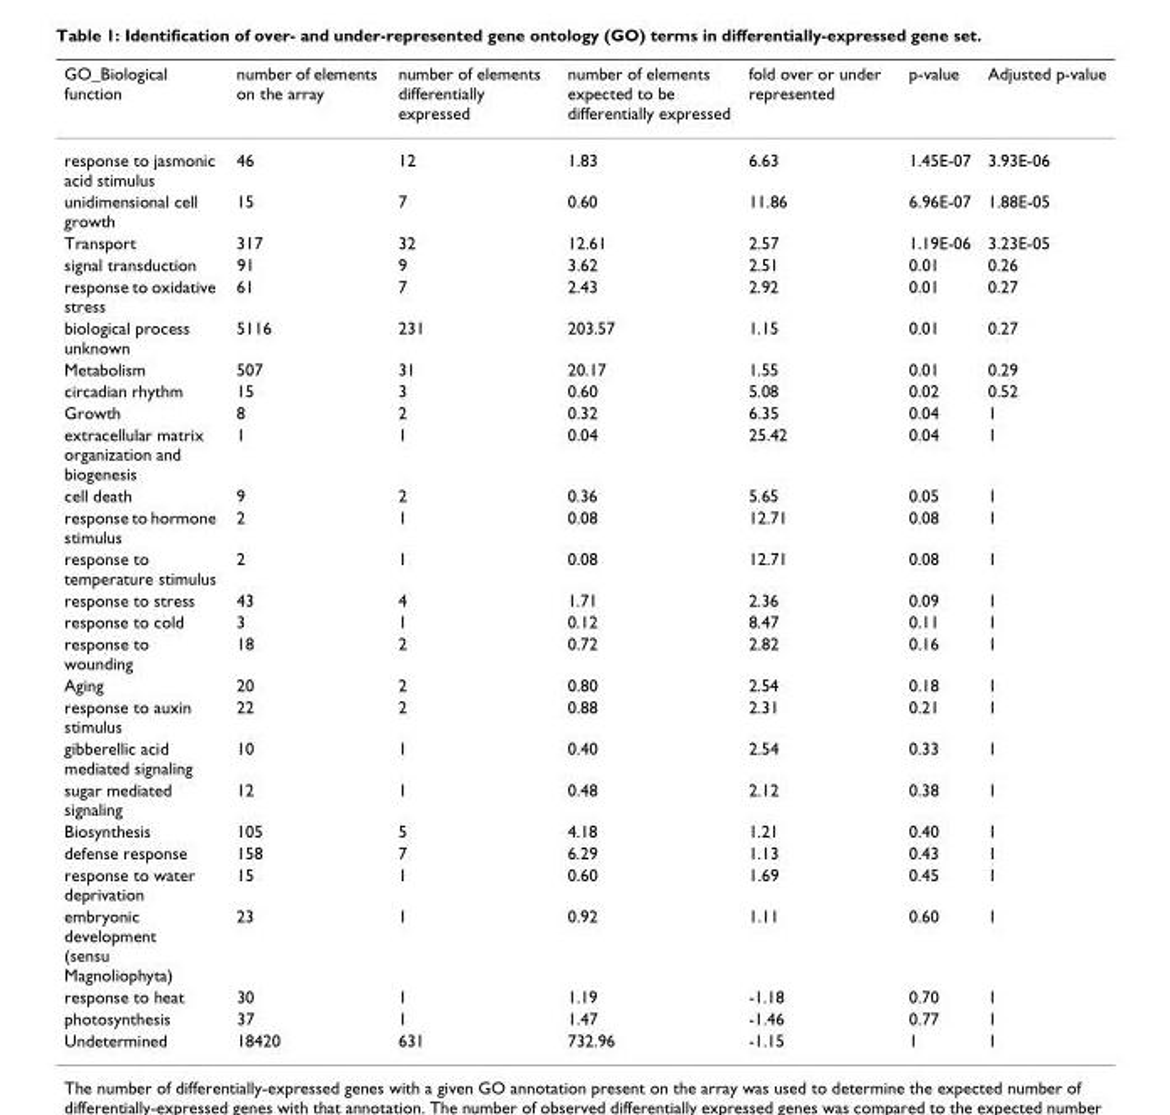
<table><thead><tr><td>GO_Biological function</td><td>number of elements on the array</td><td>number of elements differentially expressed</td><td>number of elements expected to be differentially expressed</td><td>fold over or under represented</td><td>p-value</td><td>Adjusted p-value</td></tr></thead><tbody><tr><td>response to jasmonic acid stimulus</td><td>46</td><td>12</td><td>1.83</td><td>6.63</td><td>1.45E-07</td><td>3.93E-06</td></tr><tr><td>unidimensional cell growth</td><td>15</td><td>7</td><td>0.60</td><td>11.86</td><td>6.96E-07</td><td>1.88E-05</td></tr><tr><td>Transport</td><td>317</td><td>32</td><td>12.61</td><td>2.57</td><td>1.19E-06</td><td>3.23E-05</td></tr><tr><td>signal transduction</td><td>91</td><td>9</td><td>3.62</td><td>2.51</td><td>0.01</td><td>0.26</td></tr><tr><td>response to oxidative stress</td><td>61</td><td>7</td><td>2.43</td><td>2.92</td><td>0.01</td><td>0.27</td></tr><tr><td>biological process unknown</td><td>5116</td><td>231</td><td>203.57</td><td>1.15</td><td>0.01</td><td>0.27</td></tr><tr><td>Metabolism</td><td>507</td><td>31</td><td>20.17</td><td>1.55</td><td>0.01</td><td>0.29</td></tr><tr><td>circadian rhythm</td><td>15</td><td>3</td><td>0.60</td><td>5.08</td><td>0.02</td><td>0.52</td></tr><tr><td>Growth</td><td>8</td><td>2</td><td>0.32</td><td>6.35</td><td>0.04</td><td>1</td></tr><tr><td>extracellular matrix organization and biogenesis</td><td>1</td><td>1</td><td>0.04</td><td>25.42</td><td>0.04</td><td>1</td></tr><tr><td>cell death</td><td>9</td><td>2</td><td>0.36</td><td>5.65</td><td>0.05</td><td>1</td></tr><tr><td>response to hormone stimulus</td><td>2</td><td>1</td><td>0.08</td><td>12.71</td><td>0.08</td><td>1</td></tr><tr><td>response to temperature stimulus</td><td>2</td><td>1</td><td>0.08</td><td>12.71</td><td>0.08</td><td>1</td></tr><tr><td>response to stress</td><td>43</td><td>4</td><td>1.71</td><td>2.36</td><td>0.09</td><td>1</td></tr><tr><td>response to cold</td><td>3</td><td>1</td><td>0.12</td><td>8.47</td><td>0.11</td><td>1</td></tr><tr><td>response to wounding</td><td>18</td><td>2</td><td>0.72</td><td>2.82</td><td>0.16</td><td>1</td></tr><tr><td>Aging</td><td>20</td><td>2</td><td>0.80</td><td>2.54</td><td>0.18</td><td>1</td></tr><tr><td>response to auxin stimulus</td><td>22</td><td>2</td><td>0.88</td><td>2.31</td><td>0.21</td><td>1</td></tr><tr><td>gibberellic acid mediated signaling</td><td>10</td><td>1</td><td>0.40</td><td>2.54</td><td>0.33</td><td>1</td></tr><tr><td>sugar mediated signaling</td><td>12</td><td>1</td><td>0.48</td><td>2.12</td><td>0.38</td><td>1</td></tr><tr><td>Biosynthesis</td><td>105</td><td>5</td><td>4.18</td><td>1.21</td><td>0.40</td><td>1</td></tr><tr><td>defense response</td><td>158</td><td>7</td><td>6.29</td><td>1.13</td><td>0.43</td><td>1</td></tr><tr><td>response to water deprivation</td><td>15</td><td>1</td><td>0.60</td><td>1.69</td><td>0.45</td><td>1</td></tr><tr><td>embryonic development (sensu Magnoliophyta)</td><td>23</td><td>1</td><td>0.92</td><td>1.11</td><td>0.60</td><td>1</td></tr><tr><td>response to heat</td><td>30</td><td>1</td><td>1.19</td><td>-1.18</td><td>0.70</td><td>1</td></tr><tr><td>photosynthesis</td><td>37</td><td>1</td><td>1.47</td><td>-1.46</td><td>0.77</td><td>1</td></tr><tr><td>Undetermined</td><td>18420</td><td>631</td><td>732.96</td><td>-1.15</td><td>1</td><td>1</td></tr></tbody></table>